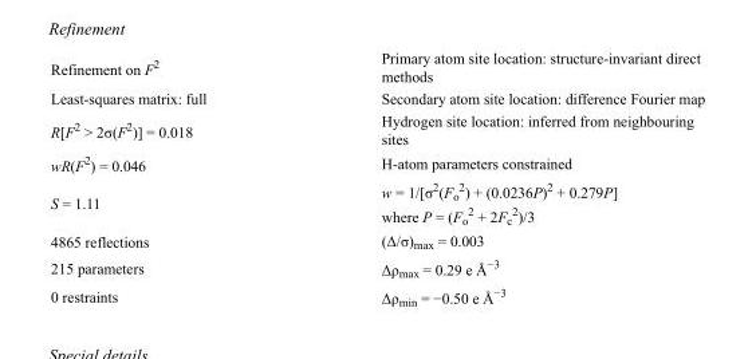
<table><tbody><tr><td>Refinement on F<sup>2</sup></td><td>Primary atom site location: structure-invariant direct methods</td></tr><tr><td>Least-squares matrix: full</td><td>Secondary atom site location: difference Fourier map</td></tr><tr><td>R[F<sup>2</sup> &gt; 2σ(F<sup>2</sup>)] = 0.018</td><td>Hydrogen site location: inferred from neighbouring sites</td></tr><tr><td>wR(F<sup>2</sup>) = 0.046</td><td>H-atom parameters constrained</td></tr><tr><td>S = 1.11</td><td>w = 1/[σ<sup>2</sup>(F<sub>o</sub> <sup>2</sup>) + (0.0236P)<sup>2</sup> + 0.279P] where P = (F<sub>o</sub> <sup>2</sup> + 2F<sub>c</sub> <sup>2</sup>)/3</td></tr><tr><td>4865 reflections</td><td>(Δ/σ)<sub>max</sub> = 0.003</td></tr><tr><td>215 parameters</td><td>Δρ<sub>max</sub> = 0.29 e Å<sup>−3</sup></td></tr><tr><td>0 restraints</td><td>Δρ<sub>min</sub> = −0.50 e Å<sup>−3</sup></td></tr></tbody></table>